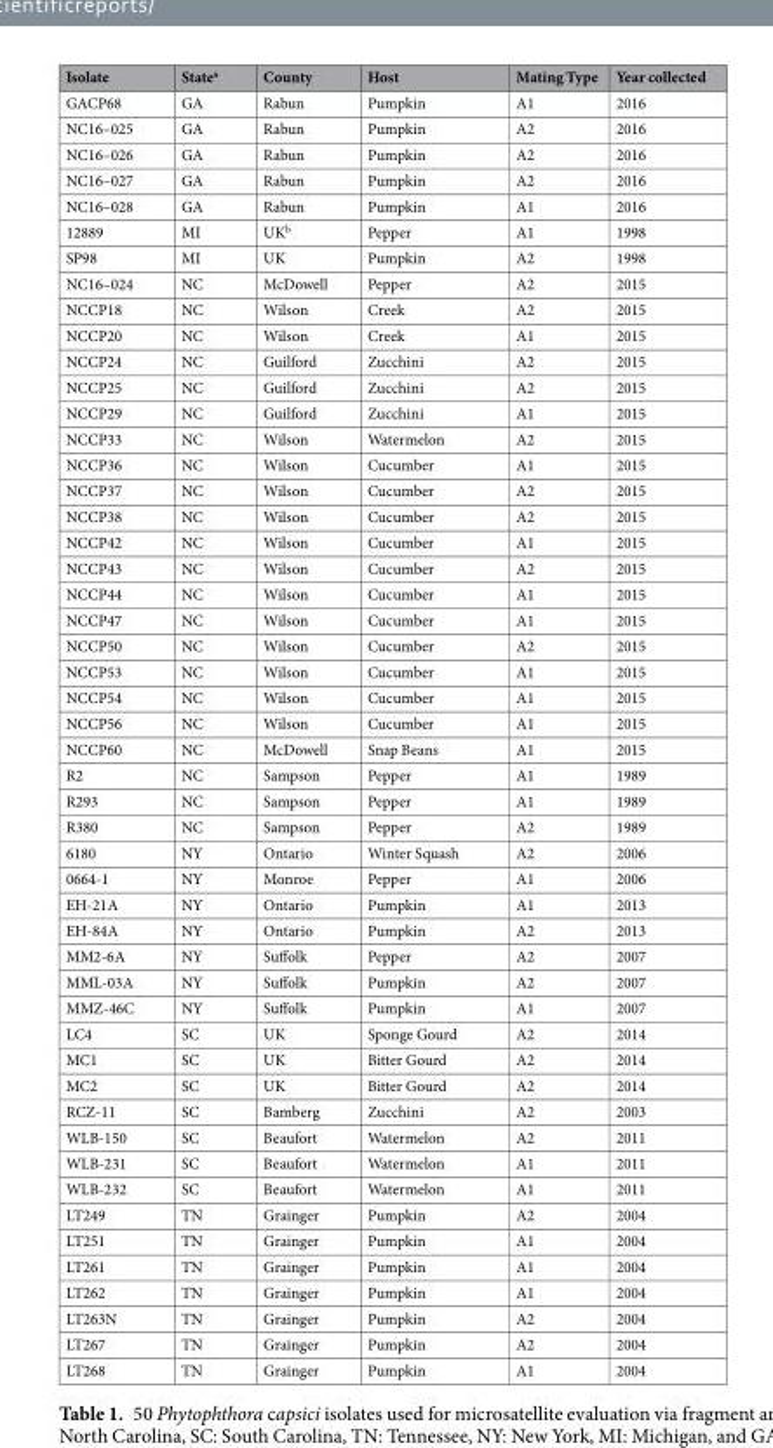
<table><thead><tr><td>Isolate</td><td>State<sup>a</sup></td><td>County</td><td>Host</td><td>Mating Type</td><td>Year collected</td></tr></thead><tbody><tr><td>GACP68</td><td>GA</td><td>Rabun</td><td>Pumpkin</td><td>A1</td><td>2016</td></tr><tr><td>NC16–025</td><td>GA</td><td>Rabun</td><td>Pumpkin</td><td>A2</td><td>2016</td></tr><tr><td>NC16–026</td><td>GA</td><td>Rabun</td><td>Pumpkin</td><td>A2</td><td>2016</td></tr><tr><td>NC16–027</td><td>GA</td><td>Rabun</td><td>Pumpkin</td><td>A2</td><td>2016</td></tr><tr><td>NC16–028</td><td>GA</td><td>Rabun</td><td>Pumpkin</td><td>A1</td><td>2016</td></tr><tr><td>12889</td><td>MI</td><td>UK<sup>b</sup></td><td>Pepper</td><td>A1</td><td>1998</td></tr><tr><td>SP98</td><td>MI</td><td>UK</td><td>Pumpkin</td><td>A2</td><td>1998</td></tr><tr><td>NC16–024</td><td>NC</td><td>McDowell</td><td>Pepper</td><td>A2</td><td>2015</td></tr><tr><td>NCCP18</td><td>NC</td><td>Wilson</td><td>Creek</td><td>A2</td><td>2015</td></tr><tr><td>NCCP20</td><td>NC</td><td>Wilson</td><td>Creek</td><td>A1</td><td>2015</td></tr><tr><td>NCCP24</td><td>NC</td><td>Guilford</td><td>Zucchini</td><td>A2</td><td>2015</td></tr><tr><td>NCCP25</td><td>NC</td><td>Guilford</td><td>Zucchini</td><td>A2</td><td>2015</td></tr><tr><td>NCCP29</td><td>NC</td><td>Guilford</td><td>Zucchini</td><td>A1</td><td>2015</td></tr><tr><td>NCCP33</td><td>NC</td><td>Wilson</td><td>Watermelon</td><td>A2</td><td>2015</td></tr><tr><td>NCCP36</td><td>NC</td><td>Wilson</td><td>Cucumber</td><td>A1</td><td>2015</td></tr><tr><td>NCCP37</td><td>NC</td><td>Wilson</td><td>Cucumber</td><td>A2</td><td>2015</td></tr><tr><td>NCCP38</td><td>NC</td><td>Wilson</td><td>Cucumber</td><td>A2</td><td>2015</td></tr><tr><td>NCCP42</td><td>NC</td><td>Wilson</td><td>Cucumber</td><td>A1</td><td>2015</td></tr><tr><td>NCCP43</td><td>NC</td><td>Wilson</td><td>Cucumber</td><td>A2</td><td>2015</td></tr><tr><td>NCCP44</td><td>NC</td><td>Wilson</td><td>Cucumber</td><td>A1</td><td>2015</td></tr><tr><td>NCCP47</td><td>NC</td><td>Wilson</td><td>Cucumber</td><td>A1</td><td>2015</td></tr><tr><td>NCCP50</td><td>NC</td><td>Wilson</td><td>Cucumber</td><td>A2</td><td>2015</td></tr><tr><td>NCCP53</td><td>NC</td><td>Wilson</td><td>Cucumber</td><td>A1</td><td>2015</td></tr><tr><td>NCCP54</td><td>NC</td><td>Wilson</td><td>Cucumber</td><td>A1</td><td>2015</td></tr><tr><td>NCCP56</td><td>NC</td><td>Wilson</td><td>Cucumber</td><td>A1</td><td>2015</td></tr><tr><td>NCCP60</td><td>NC</td><td>McDowell</td><td>Snap Beans</td><td>A1</td><td>2015</td></tr><tr><td>R2</td><td>NC</td><td>Sampson</td><td>Pepper</td><td>A1</td><td>1989</td></tr><tr><td>R293</td><td>NC</td><td>Sampson</td><td>Pepper</td><td>A1</td><td>1989</td></tr><tr><td>R380</td><td>NC</td><td>Sampson</td><td>Pepper</td><td>A2</td><td>1989</td></tr><tr><td>6180</td><td>NY</td><td>Ontario</td><td>Winter Squash</td><td>A2</td><td>2006</td></tr><tr><td>0664-1</td><td>NY</td><td>Monroe</td><td>Pepper</td><td>A1</td><td>2006</td></tr><tr><td>EH-21A</td><td>NY</td><td>Ontario</td><td>Pumpkin</td><td>A1</td><td>2013</td></tr><tr><td>EH-84A</td><td>NY</td><td>Ontario</td><td>Pumpkin</td><td>A2</td><td>2013</td></tr><tr><td>MM2-6A</td><td>NY</td><td>Suffolk</td><td>Pepper</td><td>A2</td><td>2007</td></tr><tr><td>MML-03A</td><td>NY</td><td>Suffolk</td><td>Pumpkin</td><td>A2</td><td>2007</td></tr><tr><td>MMZ-46C</td><td>NY</td><td>Suffolk</td><td>Pumpkin</td><td>A1</td><td>2007</td></tr><tr><td>LC4</td><td>SC</td><td>UK</td><td>Sponge Gourd</td><td>A2</td><td>2014</td></tr><tr><td>MC1</td><td>SC</td><td>UK</td><td>Bitter Gourd</td><td>A2</td><td>2014</td></tr><tr><td>MC2</td><td>SC</td><td>UK</td><td>Bitter Gourd</td><td>A2</td><td>2014</td></tr><tr><td>RCZ-11</td><td>SC</td><td>Bamberg</td><td>Zucchini</td><td>A2</td><td>2003</td></tr><tr><td>WLB-150</td><td>SC</td><td>Beaufort</td><td>Watermelon</td><td>A2</td><td>2011</td></tr><tr><td>WLB-231</td><td>SC</td><td>Beaufort</td><td>Watermelon</td><td>A1</td><td>2011</td></tr><tr><td>WLB-232</td><td>SC</td><td>Beaufort</td><td>Watermelon</td><td>A1</td><td>2011</td></tr><tr><td>LT249</td><td>TN</td><td>Grainger</td><td>Pumpkin</td><td>A2</td><td>2004</td></tr><tr><td>LT251</td><td>TN</td><td>Grainger</td><td>Pumpkin</td><td>A1</td><td>2004</td></tr><tr><td>LT261</td><td>TN</td><td>Grainger</td><td>Pumpkin</td><td>A1</td><td>2004</td></tr><tr><td>LT262</td><td>TN</td><td>Grainger</td><td>Pumpkin</td><td>A1</td><td>2004</td></tr><tr><td>LT263N</td><td>TN</td><td>Grainger</td><td>Pumpkin</td><td>A2</td><td>2004</td></tr><tr><td>LT267</td><td>TN</td><td>Grainger</td><td>Pumpkin</td><td>A2</td><td>2004</td></tr><tr><td>LT268</td><td>TN</td><td>Grainger</td><td>Pumpkin</td><td>A1</td><td>2004</td></tr></tbody></table>